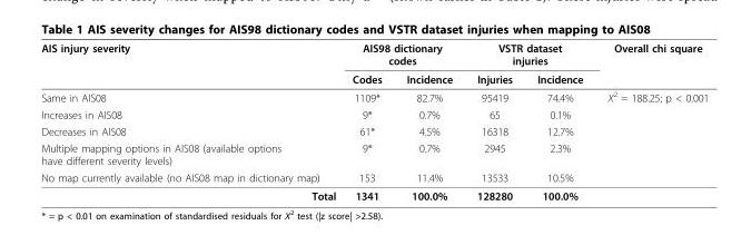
<table><thead><tr><td rowspan="2">AIS injury severity</td><td colspan="2">AIS98 dictionary codes</td><td colspan="2">VSTR dataset injuries</td><td rowspan="2">Overall chi square</td></tr><tr><td>Codes</td><td>Incidence</td><td>Injuries</td><td>Incidence</td></tr></thead><tbody><tr><td>Same in AIS08</td><td>1109*</td><td>82.7%</td><td>95419</td><td>74.4%</td><td>Χ<sup>2</sup> = 188.25; p &lt; 0.001</td></tr><tr><td>Increases in AIS08</td><td>9*</td><td>0.7%</td><td>65</td><td>0.1%</td><td></td></tr><tr><td>Decreases in AIS08</td><td>61*</td><td>4.5%</td><td>16318</td><td>12.7%</td><td></td></tr><tr><td>Multiple mapping options in AIS08 (available options have different severity levels)</td><td>9*</td><td>0.7%</td><td>2945</td><td>2.3%</td><td></td></tr><tr><td>No map currently available (no AIS08 map in dictionary map)</td><td>153</td><td>11.4%</td><td>13533</td><td>10.5%</td><td></td></tr><tr><td>Total</td><td>1341</td><td>100.0%</td><td>128280</td><td>100.0%</td><td></td></tr></tbody></table>